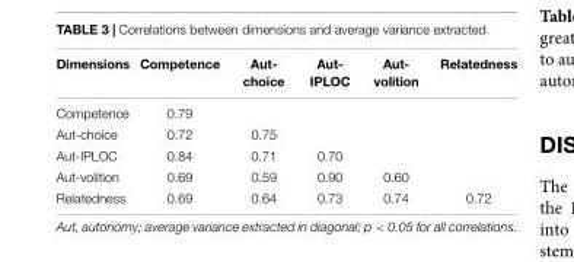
<table><thead><tr><td>Dimensions</td><td>Competence</td><td>Aut- choice</td><td>Aut- IPLOC</td><td>Aut- volition</td><td>Relatedness</td></tr></thead><tbody><tr><td>Competence</td><td>0.79</td><td></td><td></td><td></td><td></td></tr><tr><td>Aut-choice</td><td>0.72</td><td>0.75</td><td></td><td></td><td></td></tr><tr><td>Aut-IPLOC</td><td>0.84</td><td>0.71</td><td>0.70</td><td></td><td></td></tr><tr><td>Aut-volition</td><td>0.69</td><td>0.59</td><td>0.90</td><td>0.60</td><td></td></tr><tr><td>Relatedness</td><td>0.69</td><td>0.64</td><td>0.73</td><td>0.74</td><td>0.72</td></tr></tbody></table>